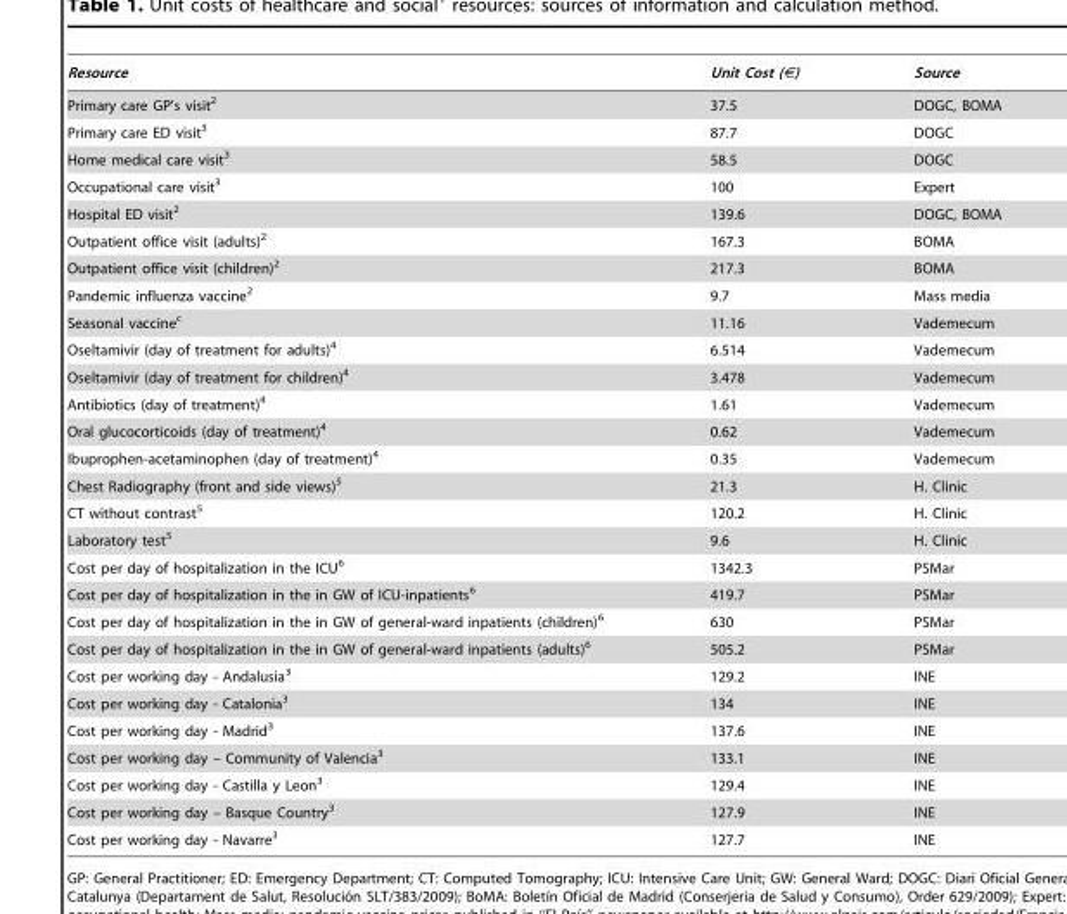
<table><thead><tr><td>Resource</td><td>Unit Cost (€)</td><td>Source</td></tr></thead><tbody><tr><td>Primary care GP’s visit<sup>2</sup></td><td>37.5</td><td>DOGC, BOMA</td></tr><tr><td>Primary care ED visit<sup>3</sup></td><td>87.7</td><td>DOGC</td></tr><tr><td>Home medical care visit<sup>3</sup></td><td>58.5</td><td>DOGC</td></tr><tr><td>Occupational care visit<sup>3</sup></td><td>100</td><td>Expert</td></tr><tr><td>Hospital ED visit<sup>2</sup></td><td>139.6</td><td>DOGC, BOMA</td></tr><tr><td>Outpatient office visit (adults)<sup>2</sup></td><td>167.3</td><td>BOMA</td></tr><tr><td>Outpatient office visit (children)<sup>2</sup></td><td>217.3</td><td>BOMA</td></tr><tr><td>Pandemic influenza vaccine<sup>2</sup></td><td>9.7</td><td>Mass media</td></tr><tr><td>Seasonal vaccine<sup>c</sup></td><td>11.16</td><td>Vademecum</td></tr><tr><td>Oseltamivir (day of treatment for adults)<sup>4</sup></td><td>6.514</td><td>Vademecum</td></tr><tr><td>Oseltamivir (day of treatment for children)<sup>4</sup></td><td>3.478</td><td>Vademecum</td></tr><tr><td>Antibiotics (day of treatment)<sup>4</sup></td><td>1.61</td><td>Vademecum</td></tr><tr><td>Oral glucocorticoids (day of treatment)<sup>4</sup></td><td>0.62</td><td>Vademecum</td></tr><tr><td>Ibuprophen-acetaminophen (day of treatment)<sup>4</sup></td><td>0.35</td><td>Vademecum</td></tr><tr><td>Chest Radiography (front and side views)<sup>5</sup></td><td>21.3</td><td>H. Clinic</td></tr><tr><td>CT without contrast<sup>5</sup></td><td>120.2</td><td>H. Clinic</td></tr><tr><td>Laboratory test<sup>5</sup></td><td>9.6</td><td>H. Clinic</td></tr><tr><td>Cost per day of hospitalization in the ICU<sup>6</sup></td><td>1342.3</td><td>PSMar</td></tr><tr><td>Cost per day of hospitalization in the in GW of ICU-inpatients<sup>6</sup></td><td>419.7</td><td>PSMar</td></tr><tr><td>Cost per day of hospitalization in the in GW of general-ward inpatients (children)<sup>6</sup></td><td>630</td><td>PSMar</td></tr><tr><td>Cost per day of hospitalization in the in GW of general-ward inpatients (adults)<sup>6</sup></td><td>505.2</td><td>PSMar</td></tr><tr><td>Cost per working day - Andalusia<sup>3</sup></td><td>129.2</td><td>INE</td></tr><tr><td>Cost per working day - Catalonia<sup>3</sup></td><td>134</td><td>INE</td></tr><tr><td>Cost per working day - Madrid<sup>3</sup></td><td>137.6</td><td>INE</td></tr><tr><td>Cost per working day – Community of Valencia<sup>3</sup></td><td>133.1</td><td>INE</td></tr><tr><td>Cost per working day - Castilla y Leon<sup>3</sup></td><td>129.4</td><td>INE</td></tr><tr><td>Cost per working day – Basque Country<sup>3</sup></td><td>127.9</td><td>INE</td></tr><tr><td>Cost per working day - Navarre<sup>3</sup></td><td>127.7</td><td>INE</td></tr></tbody></table>